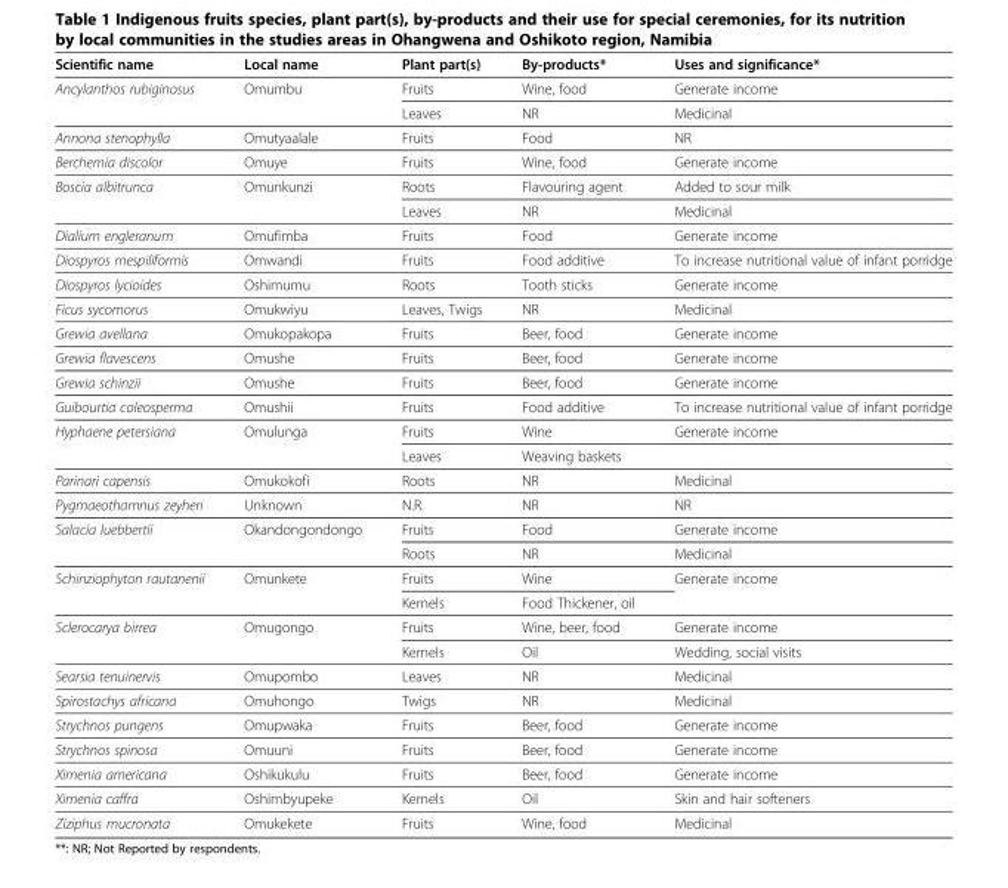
<table><thead><tr><td>Scientific name</td><td>Local name</td><td>Plant part(s)</td><td>By-products*</td><td>Uses and significance*</td></tr></thead><tbody><tr><td rowspan="2">Ancylanthos rubiginosus</td><td rowspan="2">Omumbu</td><td>Fruits</td><td>Wine, food</td><td>Generate income</td></tr><tr><td>Leaves</td><td>NR</td><td>Medicinal</td></tr><tr><td>Annona stenophylla</td><td>Omutyaalale</td><td>Fruits</td><td>Food</td><td>NR</td></tr><tr><td>Berchemia discolor</td><td>Omuye</td><td>Fruits</td><td>Wine, food</td><td>Generate income</td></tr><tr><td rowspan="2">Boscia albitrunca</td><td rowspan="2">Omunkunzi</td><td>Roots</td><td>Flavouring agent</td><td>Added to sour milk</td></tr><tr><td>Leaves</td><td>NR</td><td>Medicinal</td></tr><tr><td>Dialium engleranum</td><td>Omufimba</td><td>Fruits</td><td>Food</td><td>Generate income</td></tr><tr><td>Diospyros mespiliformis</td><td>Omwandi</td><td>Fruits</td><td>Food additive</td><td>To increase nutritional value of infant porridge</td></tr><tr><td>Diospyros lycioides</td><td>Oshimumu</td><td>Roots</td><td>Tooth sticks</td><td>Generate income</td></tr><tr><td>Ficus sycomorus</td><td>Omukwiyu</td><td>Leaves, Twigs</td><td>NR</td><td>Medicinal</td></tr><tr><td>Grewia avellana</td><td>Omukopakopa</td><td>Fruits</td><td>Beer, food</td><td>Generate income</td></tr><tr><td>Grewia flavescens</td><td>Omushe</td><td>Fruits</td><td>Beer, food</td><td>Generate income</td></tr><tr><td>Grewia schinzii</td><td>Omushe</td><td>Fruits</td><td>Beer, food</td><td>Generate income</td></tr><tr><td>Guibourtia coleosperma</td><td>Omushii</td><td>Fruits</td><td>Food additive</td><td>To increase nutritional value of infant porridge</td></tr><tr><td rowspan="2">Hyphaene petersiana</td><td rowspan="2">Omulunga</td><td>Fruits</td><td>Wine</td><td>Generate income</td></tr><tr><td>Leaves</td><td>Weaving baskets</td><td></td></tr><tr><td>Parinari capensis</td><td>Omukokofi</td><td>Roots</td><td>NR</td><td>Medicinal</td></tr><tr><td>Pygmaeothamnus zeyheri</td><td>Unknown</td><td>N.R.</td><td>NR</td><td>NR</td></tr><tr><td rowspan="2">Salacia luebbertii</td><td rowspan="2">Okandongondongo</td><td>Fruits</td><td>Food</td><td>Generate income</td></tr><tr><td>Roots</td><td>NR</td><td>Medicinal</td></tr><tr><td rowspan="2">Schinziophyton rautanenii</td><td rowspan="2">Omunkete</td><td>Fruits</td><td>Wine</td><td rowspan="2">Generate income</td></tr><tr><td>Kernels</td><td>Food Thickener, oil</td></tr><tr><td rowspan="2">Sclerocarya birrea</td><td rowspan="2">Omugongo</td><td>Fruits</td><td>Wine, beer, food</td><td>Generate income</td></tr><tr><td>Kernels</td><td>Oil</td><td>Wedding, social visits</td></tr><tr><td>Searsia tenuinervis</td><td>Omupombo</td><td>Leaves</td><td>NR</td><td>Medicinal</td></tr><tr><td>Spirostachys africana</td><td>Omuhongo</td><td>Twigs</td><td>NR</td><td>Medicinal</td></tr><tr><td>Strychnos pungens</td><td>Omupwaka</td><td>Fruits</td><td>Beer, food</td><td>Generate income</td></tr><tr><td>Strychnos spinosa</td><td>Omuuni</td><td>Fruits</td><td>Beer, food</td><td>Generate income</td></tr><tr><td>Ximenia americana</td><td>Oshikukulu</td><td>Fruits</td><td>Beer, food</td><td>Generate income</td></tr><tr><td>Ximenia caffra</td><td>Oshimbyupeke</td><td>Kernels</td><td>Oil</td><td>Skin and hair softeners</td></tr><tr><td>Ziziphus mucronata</td><td>Omukekete</td><td>Fruits</td><td>Wine, food</td><td>Medicinal</td></tr></tbody></table>